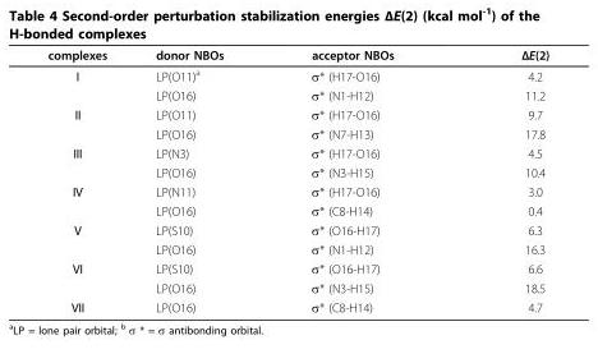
<table><thead><tr><td>complexes</td><td>donor NBOs</td><td>acceptor NBOs</td><td>ΔE(2)</td></tr></thead><tbody><tr><td rowspan="2">I</td><td>LP(O11)<sup>a</sup></td><td>σ* (H17-O16)</td><td>4.2</td></tr><tr><td>LP(O16)</td><td>σ* (N1-H12)</td><td>11.2</td></tr><tr><td rowspan="2">II</td><td>LP(O11)</td><td>σ* (H17-O16)</td><td>9.7</td></tr><tr><td>LP(O16)</td><td>σ* (N7-H13)</td><td>17.8</td></tr><tr><td rowspan="2">III</td><td>LP(N3)</td><td>σ* (H17-O16)</td><td>4.5</td></tr><tr><td>LP(O16)</td><td>σ* (N3-H15)</td><td>10.4</td></tr><tr><td rowspan="2">IV</td><td>LP(N11)</td><td>σ* (H17-O16)</td><td>3.0</td></tr><tr><td>LP(O16)</td><td>σ* (C8-H14)</td><td>0.4</td></tr><tr><td rowspan="2">V</td><td>LP(S10)</td><td>σ* (O16-H17)</td><td>6.3</td></tr><tr><td>LP(O16)</td><td>σ* (N1-H12)</td><td>16.3</td></tr><tr><td rowspan="2">VI</td><td>LP(S10)</td><td>σ* (O16-H17)</td><td>6.6</td></tr><tr><td>LP(O16)</td><td>σ* (N3-H15)</td><td>18.5</td></tr><tr><td>VII</td><td>LP(O16)</td><td>σ* (C8-H14)</td><td>4.7</td></tr></tbody></table>